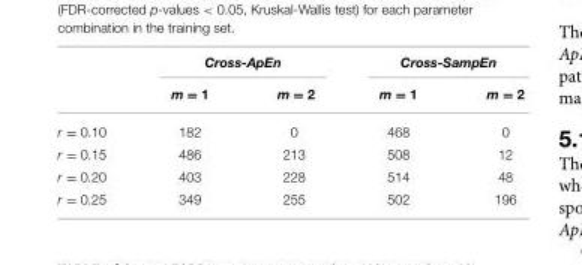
<table><thead><tr><td rowspan="2"></td><td colspan="2">Cross-ApEn</td><td colspan="2">Cross-SampEn</td></tr><tr><td>m = 1</td><td>m = 2</td><td>m = 1</td><td>m = 2</td></tr></thead><tbody><tr><td>r = 0.10</td><td>182</td><td>0</td><td>468</td><td>0</td></tr><tr><td>r = 0.15</td><td>486</td><td>213</td><td>508</td><td>12</td></tr><tr><td>r = 0.20</td><td>403</td><td>228</td><td>514</td><td>48</td></tr><tr><td>r = 0.25</td><td>349</td><td>255</td><td>502</td><td>196</td></tr></tbody></table>